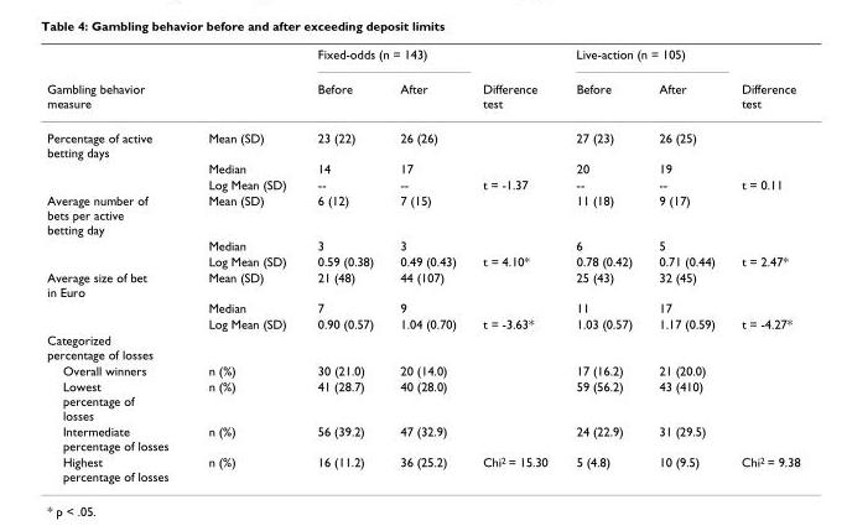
<table><thead><tr><td rowspan="2">Gambling behavior measure</td><td rowspan="2"></td><td colspan="2">Fixed-odds (n = 143)</td><td rowspan="2">Difference test</td><td colspan="2">Live-action (n = 105)</td><td rowspan="2">Difference test</td></tr><tr><td>Before</td><td>After</td><td>Before</td><td>After</td></tr></thead><tbody><tr><td rowspan="3">Percentage of active betting days</td><td>Mean (SD)</td><td>23 (22)</td><td>26 (26)</td><td></td><td>27 (23)</td><td>26 (25)</td><td></td></tr><tr><td>Median</td><td>14</td><td>17</td><td></td><td>20</td><td>19</td><td></td></tr><tr><td>Log Mean (SD)</td><td>--</td><td>--</td><td>t = -1.37</td><td>--</td><td>--</td><td>t = 0.11</td></tr><tr><td rowspan="3">Average number of bets per active betting day</td><td>Mean (SD)</td><td>6 (12)</td><td>7 (15)</td><td></td><td>11 (18)</td><td>9 (17)</td><td></td></tr><tr><td>Median</td><td>3</td><td>3</td><td></td><td>6</td><td>5</td><td></td></tr><tr><td>Log Mean (SD)</td><td>0.59 (0.38)</td><td>0.49 (0.43)</td><td>t = 4.10*</td><td>0.78 (0.42)</td><td>0.71 (0.44)</td><td>t = 2.47*</td></tr><tr><td rowspan="3">Average size of bet in Euro</td><td>Mean (SD)</td><td>21 (48)</td><td>44 (107)</td><td></td><td>25 (43)</td><td>32 (45)</td><td></td></tr><tr><td>Median</td><td>7</td><td>9</td><td></td><td>11</td><td>17</td><td></td></tr><tr><td>Log Mean (SD)</td><td>0.90 (0.57)</td><td>1.04 (0.70)</td><td>t = -3.63*</td><td>1.03 (0.57)</td><td>1.17 (0.59)</td><td>t = -4.27*</td></tr><tr><td colspan="8">Categorized percentage of losses</td></tr><tr><td>Overall winners</td><td>n (%)</td><td>30 (21.0)</td><td>20 (14.0)</td><td></td><td>17 (16.2)</td><td>21 (20.0)</td><td></td></tr><tr><td>Lowest percentage of losses</td><td>n (%)</td><td>41 (28.7)</td><td>40 (28.0)</td><td></td><td>59 (56.2)</td><td>43 (410)</td><td></td></tr><tr><td>Intermediate percentage of losses</td><td>n (%)</td><td>56 (39.2)</td><td>47 (32.9)</td><td></td><td>24 (22.9)</td><td>31 (29.5)</td><td></td></tr><tr><td>Highest percentage of losses</td><td>n (%)</td><td>16 (11.2)</td><td>36 (25.2)</td><td>Chi<sup>2</sup> = 15.30</td><td>5 (4.8)</td><td>10 (9.5)</td><td>Chi<sup>2</sup> = 9.38</td></tr></tbody></table>